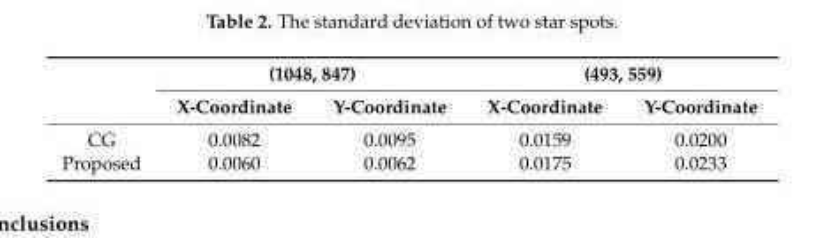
<table><thead><tr><td rowspan="2"></td><td colspan="2">(1048, 847)</td><td colspan="2">(493, 559)</td></tr><tr><td>X-Coordinate</td><td>Y-Coordinate</td><td>X-Coordinate</td><td>Y-Coordinate</td></tr></thead><tbody><tr><td>CG</td><td>0.0082</td><td>0.0095</td><td>0.0159</td><td>0.0200</td></tr><tr><td>Proposed</td><td>0.0060</td><td>0.0062</td><td>0.0175</td><td>0.0233</td></tr></tbody></table>